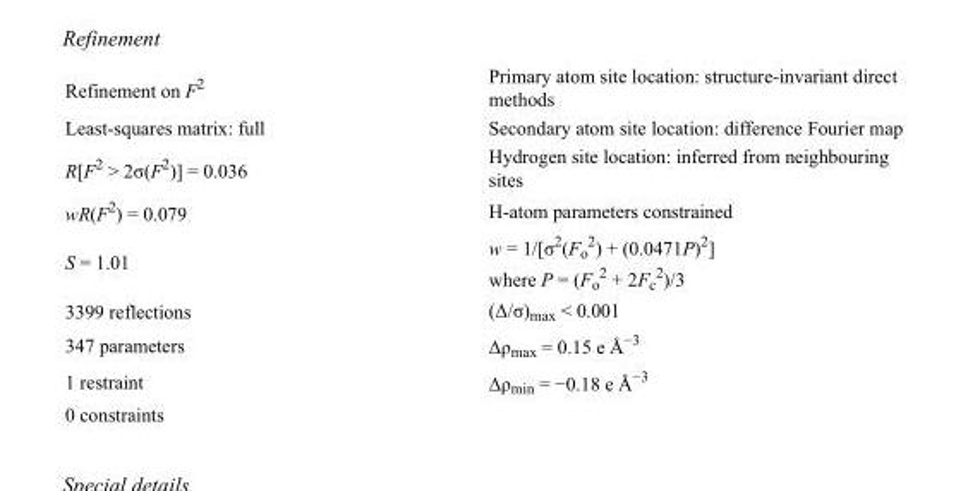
<table><tbody><tr><td>Refinement on F<sup>2</sup></td><td>Primary atom site location: structure-invariant direct methods</td></tr><tr><td>Least-squares matrix: full</td><td>Secondary atom site location: difference Fourier map</td></tr><tr><td>R[F<sup>2</sup> &gt; 2σ(F<sup>2</sup>)] = 0.036</td><td>Hydrogen site location: inferred from neighbouring sites</td></tr><tr><td>wR(F<sup>2</sup>) = 0.079</td><td>H-atom parameters constrained</td></tr><tr><td>S = 1.01</td><td>w = 1/[σ<sup>2</sup>(F<sub>o</sub> <sup>2</sup>) + (0.0471P)<sup>2</sup>] where P = (F<sub>o</sub> <sup>2</sup> + 2F<sub>c</sub> <sup>2</sup>)/3</td></tr><tr><td>3399 reflections</td><td>(Δ/σ)<sub>max</sub> &lt; 0.001</td></tr><tr><td>347 parameters</td><td>Δρ<sub>max</sub> = 0.15 e Å<sup>−3</sup></td></tr><tr><td>1 restraint</td><td>Δρ<sub>min</sub> = −0.18 e Å<sup>−3</sup></td></tr><tr><td>0 constraints</td><td></td></tr></tbody></table>